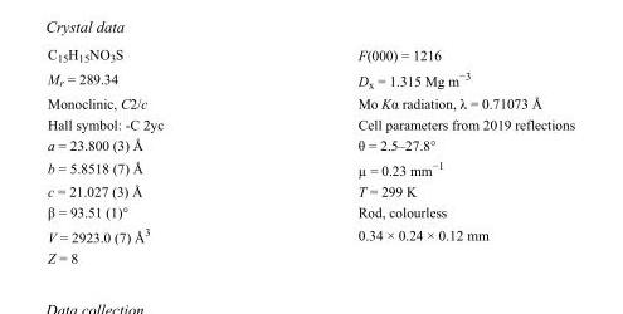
<table><tbody><tr><td>C<sub>15</sub>H<sub>15</sub>NO<sub>3</sub>S</td><td>F(000) = 1216</td></tr><tr><td>M<sub>r</sub> = 289.34</td><td>D<sub>x</sub> = 1.315 Mg m<sup>−3</sup></td></tr><tr><td>Monoclinic, C2/c</td><td>Mo Kα radiation, λ = 0.71073 Å</td></tr><tr><td>Hall symbol: -C 2yc</td><td>Cell parameters from 2019 reflections</td></tr><tr><td>a = 23.800 (3) Å</td><td>θ = 2.5–27.8°</td></tr><tr><td>b = 5.8518 (7) Å</td><td>µ = 0.23 mm<sup>−1</sup></td></tr><tr><td>c = 21.027 (3) Å</td><td>T = 299 K</td></tr><tr><td>β = 93.51 (1)°</td><td>Rod, colourless</td></tr><tr><td>V = 2923.0 (7) Å<sup>3</sup></td><td>0.34 × 0.24 × 0.12 mm</td></tr><tr><td>Z = 8</td><td></td></tr></tbody></table>